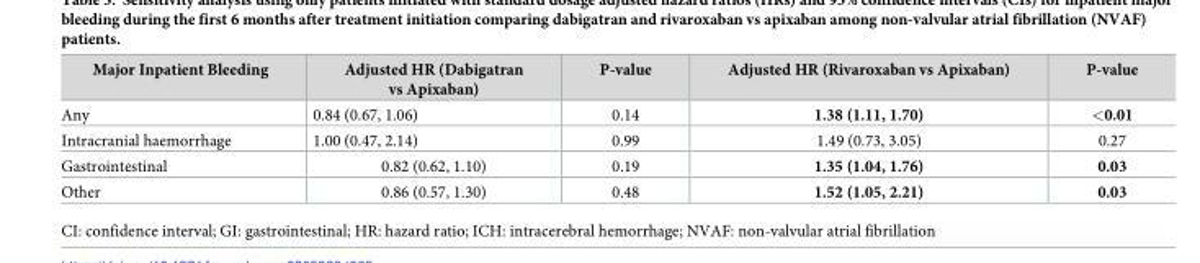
<table><thead><tr><td>Major Inpatient Bleeding</td><td>Adjusted HR (Dabigatran vs Apixaban)</td><td>P-value</td><td>Adjusted HR (Rivaroxaban vs Apixaban)</td><td>P-value</td></tr></thead><tbody><tr><td>Any</td><td>0.84 (0.67, 1.06)</td><td>0.14</td><td>1.38 (1.11, 1.70)</td><td>&lt;0.01</td></tr><tr><td>Intracranial haemorrhage</td><td>1.00 (0.47, 2.14)</td><td>0.99</td><td>1.49 (0.73, 3.05)</td><td>0.27</td></tr><tr><td>Gastrointestinal</td><td>0.82 (0.62, 1.10)</td><td>0.19</td><td>1.35 (1.04, 1.76)</td><td>0.03</td></tr><tr><td>Other</td><td>0.86 (0.57, 1.30)</td><td>0.48</td><td>1.52 (1.05, 2.21)</td><td>0.03</td></tr></tbody></table>